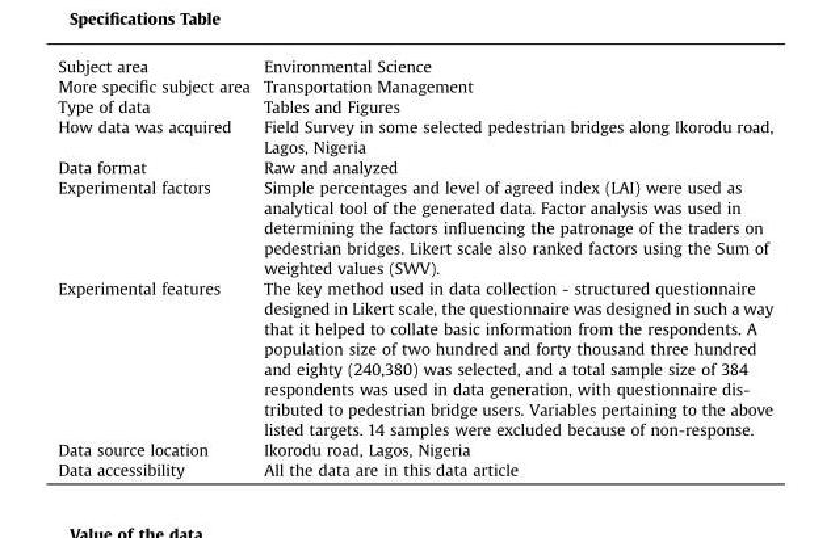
<table><tbody><tr><td>Subject area</td><td>Environmental Science</td></tr><tr><td>More specific subject area</td><td>Transportation Management</td></tr><tr><td>Type of data</td><td>Tables and Figures</td></tr><tr><td>How data was acquired</td><td>Field Survey in some selected pedestrian bridges along Ikorodu road, Lagos, Nigeria</td></tr><tr><td>Data format</td><td>Raw and analyzed</td></tr><tr><td>Experimental factors</td><td>Simple percentages and level of agreed index (LAI) were used as analytical tool of the generated data. Factor analysis was used in determining the factors influencing the patronage of the traders on pedestrian bridges. Likert scale also ranked factors using the Sum of weighted values (SWV).</td></tr><tr><td>Experimental features</td><td>The key method used in data collection - structured questionnaire designed in Likert scale, the questionnaire was designed in such a way that it helped to collate basic information from the respondents. A population size of two hundred and forty thousand three hundred and eighty (240,380) was selected, and a total sample size of 384 respondents was used in data generation, with questionnaire dis- tributed to pedestrian bridge users. Variables pertaining to the above listed targets. 14 samples were excluded because of non-response.</td></tr><tr><td>Data source location</td><td>Ikorodu road, Lagos, Nigeria</td></tr><tr><td>Data accessibility</td><td>All the data are in this data article</td></tr></tbody></table>